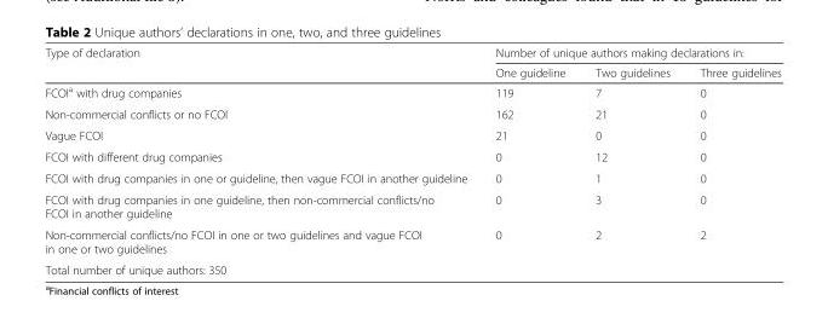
<table><thead><tr><td rowspan="2">Type of declaration</td><td colspan="3">Number of unique authors making declarations in:</td></tr><tr><td>One guideline</td><td>Two guidelines</td><td>Three guidelines</td></tr></thead><tbody><tr><td>FCOI<sup>a</sup> with drug companies</td><td>119</td><td>7</td><td>0</td></tr><tr><td>Non-commercial conflicts or no FCOI</td><td>162</td><td>21</td><td>0</td></tr><tr><td>Vague FCOI</td><td>21</td><td>0</td><td>0</td></tr><tr><td>FCOI with different drug companies</td><td>0</td><td>12</td><td>0</td></tr><tr><td>FCOI with drug companies in one or guideline, then vague FCOI in another guideline</td><td>0</td><td>1</td><td>0</td></tr><tr><td>FCOI with drug companies in one guideline, then non-commercial conflicts/no FCOI in another guideline</td><td>0</td><td>3</td><td>0</td></tr><tr><td>Non-commercial conflicts/no FCOI in one or two guidelines and vague FCOI in one or two guidelines</td><td>0</td><td>2</td><td>2</td></tr><tr><td colspan="4">Total number of unique authors: 350</td></tr></tbody></table>